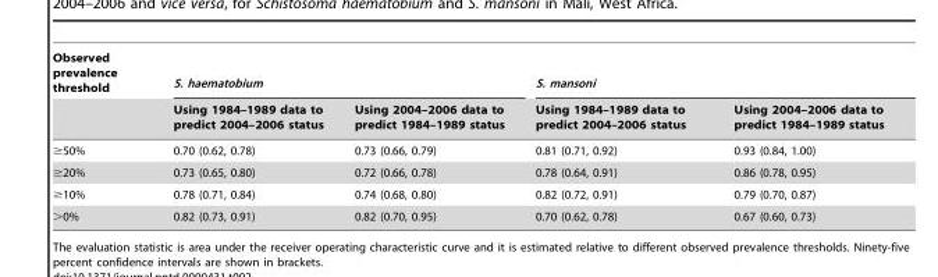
<table><thead><tr><td rowspan="2">Observed prevalence threshold</td><td colspan="2">S. haematobium</td><td colspan="2">S. mansoni</td></tr><tr><td>Using 1984–1989 data to predict 2004–2006 status</td><td>Using 2004–2006 data to predict 1984–1989 status</td><td>Using 1984–1989 data to predict 2004–2006 status</td><td>Using 2004–2006 data to predict 1984–1989 status</td></tr></thead><tbody><tr><td>≥50%</td><td>0.70 (0.62, 0.78)</td><td>0.73 (0.66, 0.79)</td><td>0.81 (0.71, 0.92)</td><td>0.93 (0.84, 1.00)</td></tr><tr><td>≥20%</td><td>0.73 (0.65, 0.80)</td><td>0.72 (0.66, 0.78)</td><td>0.78 (0.64, 0.91)</td><td>0.86 (0.78, 0.95)</td></tr><tr><td>≥10%</td><td>0.78 (0.71, 0.84)</td><td>0.74 (0.68, 0.80)</td><td>0.82 (0.72, 0.91)</td><td>0.79 (0.70, 0.87)</td></tr><tr><td>&gt;0%</td><td>0.82 (0.73, 0.91)</td><td>0.82 (0.70, 0.95)</td><td>0.70 (0.62, 0.78)</td><td>0.67 (0.60, 0.73)</td></tr></tbody></table>